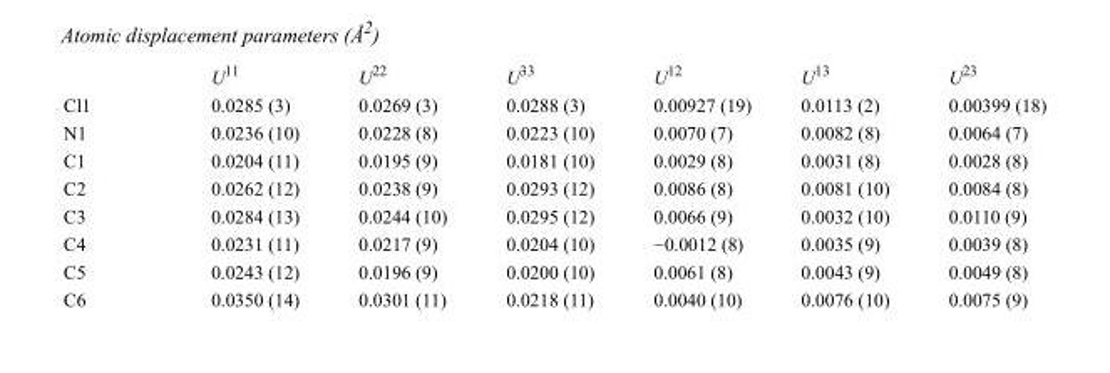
<table><thead><tr><td></td><td>U<sup>11</sup></td><td>U<sup>22</sup></td><td>U<sup>33</sup></td><td>U<sup>12</sup></td><td>U<sup>13</sup></td><td>U<sup>23</sup></td></tr></thead><tbody><tr><td>Cl1</td><td>0.0285 (3)</td><td>0.0269 (3)</td><td>0.0288 (3)</td><td>0.00927 (19)</td><td>0.0113 (2)</td><td>0.00399 (18)</td></tr><tr><td>N1</td><td>0.0236 (10)</td><td>0.0228 (8)</td><td>0.0223 (10)</td><td>0.0070 (7)</td><td>0.0082 (8)</td><td>0.0064 (7)</td></tr><tr><td>C1</td><td>0.0204 (11)</td><td>0.0195 (9)</td><td>0.0181 (10)</td><td>0.0029 (8)</td><td>0.0031 (8)</td><td>0.0028 (8)</td></tr><tr><td>C2</td><td>0.0262 (12)</td><td>0.0238 (9)</td><td>0.0293 (12)</td><td>0.0086 (8)</td><td>0.0081 (10)</td><td>0.0084 (8)</td></tr><tr><td>C3</td><td>0.0284 (13)</td><td>0.0244 (10)</td><td>0.0295 (12)</td><td>0.0066 (9)</td><td>0.0032 (10)</td><td>0.0110 (9)</td></tr><tr><td>C4</td><td>0.0231 (11)</td><td>0.0217 (9)</td><td>0.0204 (10)</td><td>−0.0012 (8)</td><td>0.0035 (9)</td><td>0.0039 (8)</td></tr><tr><td>C5</td><td>0.0243 (12)</td><td>0.0196 (9)</td><td>0.0200 (10)</td><td>0.0061 (8)</td><td>0.0043 (9)</td><td>0.0049 (8)</td></tr><tr><td>C6</td><td>0.0350 (14)</td><td>0.0301 (11)</td><td>0.0218 (11)</td><td>0.0040 (10)</td><td>0.0076 (10)</td><td>0.0075 (9)</td></tr></tbody></table>